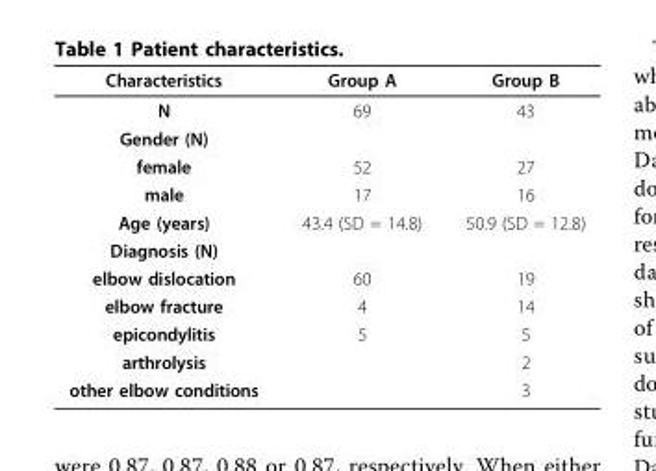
<table><thead><tr><td>Characteristics</td><td>Group A</td><td>Group B</td></tr></thead><tbody><tr><td>N</td><td>69</td><td>43</td></tr><tr><td colspan="3">Gender (N)</td></tr><tr><td>female</td><td>52</td><td>27</td></tr><tr><td>male</td><td>17</td><td>16</td></tr><tr><td>Age (years)</td><td>43.4 (SD = 14.8)</td><td>50.9 (SD = 12.8)</td></tr><tr><td colspan="3">Diagnosis (N)</td></tr><tr><td>elbow dislocation</td><td>60</td><td>19</td></tr><tr><td>elbow fracture</td><td>4</td><td>14</td></tr><tr><td>epicondylitis</td><td>5</td><td>5</td></tr><tr><td>arthrolysis</td><td></td><td>2</td></tr><tr><td>other elbow conditions</td><td></td><td>3</td></tr></tbody></table>